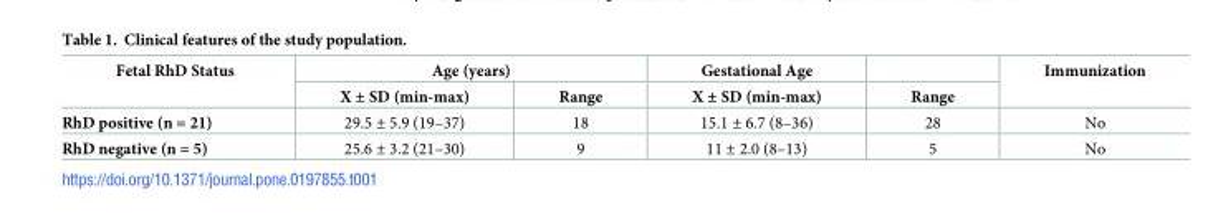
<table><thead><tr><td rowspan="2">Fetal RhD Status</td><td colspan="2">Age (years)</td><td rowspan="2">Gestational Age X ± SD (min-max)</td><td rowspan="2">Range</td><td rowspan="2">Immunization</td></tr><tr><td>X ± SD (min-max)</td><td>Range</td></tr></thead><tbody><tr><td>RhD positive (n = 21)</td><td>29.5 ± 5.9 (19–37)</td><td>18</td><td>15.1 ± 6.7 (8–36)</td><td>28</td><td>No</td></tr><tr><td>RhD negative (n = 5)</td><td>25.6 ± 3.2 (21–30)</td><td>9</td><td>11 ± 2.0 (8–13)</td><td>5</td><td>No</td></tr></tbody></table>